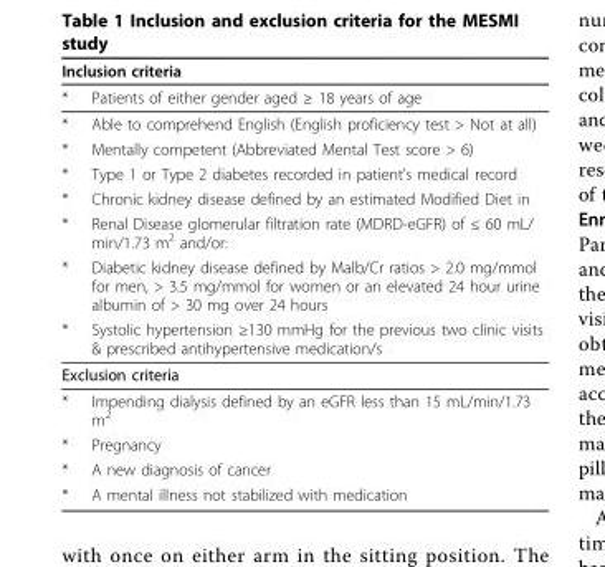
<table><thead><tr><td colspan="2">Inclusion criteria</td></tr><tr><td>*</td><td>Patients of either gender aged ≥ 18 years of age</td></tr></thead><tbody><tr><td>*</td><td>Able to comprehend English (English proficiency test &gt; Not at all)</td></tr><tr><td>*</td><td>Mentally competent (Abbreviated Mental Test score &gt; 6)</td></tr><tr><td>*</td><td>Type 1 or Type 2 diabetes recorded in patient’s medical record</td></tr><tr><td>*</td><td>Chronic kidney disease defined by an estimated Modified Diet in</td></tr><tr><td>*</td><td>Renal Disease glomerular filtration rate (MDRD-eGFR) of ≤ 60 mL/ min/1.73 m<sup>2</sup> and/or:</td></tr><tr><td>*</td><td>Diabetic kidney disease defined by Malb/Cr ratios &gt; 2.0 mg/mmol for men, &gt; 3.5 mg/mmol for women or an elevated 24 hour urine albumin of &gt; 30 mg over 24 hours</td></tr><tr><td>*</td><td>Systolic hypertension ≥130 mmHg for the previous two clinic visits &amp; prescribed antihypertensive medication/s</td></tr><tr><td colspan="2">Exclusion criteria</td></tr><tr><td>*</td><td>Impending dialysis defined by an eGFR less than 15 mL/min/1.73 m<sup>2</sup></td></tr><tr><td>*</td><td>Pregnancy</td></tr><tr><td>*</td><td>A new diagnosis of cancer</td></tr><tr><td>*</td><td>A mental illness not stabilized with medication</td></tr></tbody></table>